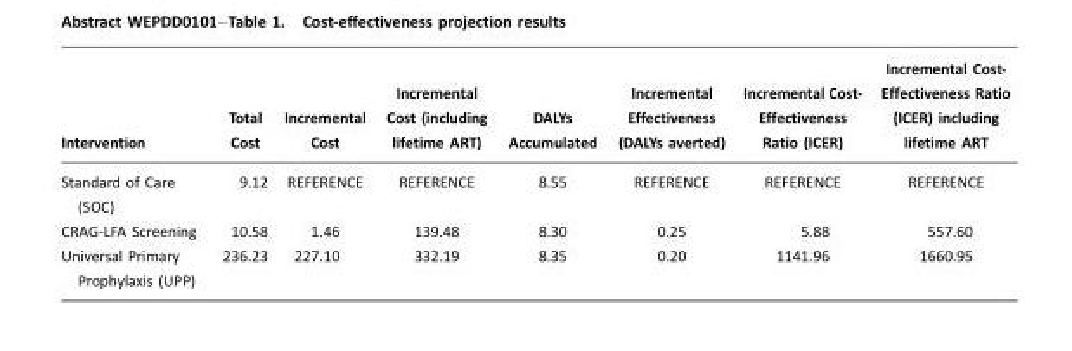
<table><thead><tr><td>Intervention</td><td>Total Cost</td><td>Incremental Cost</td><td>Incremental Cost (including lifetime ART)</td><td>DALYs Accumulated</td><td>Incremental Effectiveness (DALYs averted)</td><td>Incremental Cost- Effectiveness Ratio (ICER)</td><td>Incremental Cost- Effectiveness Ratio (ICER) including lifetime ART</td></tr></thead><tbody><tr><td>Standard of Care (SOC)</td><td>9.12</td><td>REFERENCE</td><td>REFERENCE</td><td>8.55</td><td>REFERENCE</td><td>REFERENCE</td><td>REFERENCE</td></tr><tr><td>CRAG-LFA Screening</td><td>10.58</td><td>1.46</td><td>139.48</td><td>8.30</td><td>0.25</td><td>5.88</td><td>557.60</td></tr><tr><td>Universal Primary Prophylaxis (UPP)</td><td>236.23</td><td>227.10</td><td>332.19</td><td>8.35</td><td>0.20</td><td>1141.96</td><td>1660.95</td></tr></tbody></table>